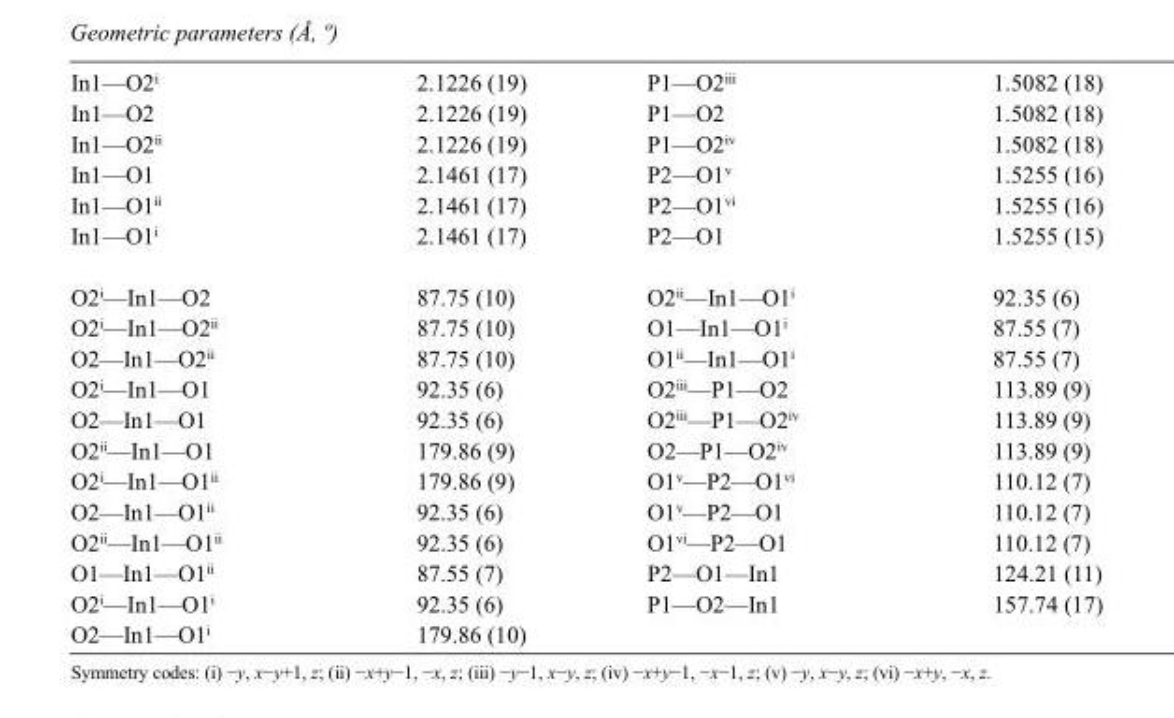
<table><tbody><tr><td>In1—O2<sup>i</sup></td><td>2.1226 (19)</td><td>P1—O2<sup>iii</sup></td><td>1.5082 (18)</td></tr><tr><td>In1—O2</td><td>2.1226 (19)</td><td>P1—O2</td><td>1.5082 (18)</td></tr><tr><td>In1—O2<sup>ii</sup></td><td>2.1226 (19)</td><td>P1—O2<sup>iv</sup></td><td>1.5082 (18)</td></tr><tr><td>In1—O1</td><td>2.1461 (17)</td><td>P2—O1<sup>v</sup></td><td>1.5255 (16)</td></tr><tr><td>In1—O1<sup>ii</sup></td><td>2.1461 (17)</td><td>P2—O1<sup>vi</sup></td><td>1.5255 (16)</td></tr><tr><td>In1—O1<sup>i</sup></td><td>2.1461 (17)</td><td>P2—O1</td><td>1.5255 (15)</td></tr><tr><td>O2<sup>i</sup>—In1—O2</td><td>87.75 (10)</td><td>O2<sup>ii</sup>—In1—O1<sup>i</sup></td><td>92.35 (6)</td></tr><tr><td>O2<sup>i</sup>—In1—O2<sup>ii</sup></td><td>87.75 (10)</td><td>O1—In1—O1<sup>i</sup></td><td>87.55 (7)</td></tr><tr><td>O2—In1—O2<sup>ii</sup></td><td>87.75 (10)</td><td>O1<sup>ii</sup>—In1—O1<sup>i</sup></td><td>87.55 (7)</td></tr><tr><td>O2<sup>i</sup>—In1—O1</td><td>92.35 (6)</td><td>O2<sup>iii</sup>—P1—O2</td><td>113.89 (9)</td></tr><tr><td>O2—In1—O1</td><td>92.35 (6)</td><td>O2<sup>iii</sup>—P1—O2<sup>iv</sup></td><td>113.89 (9)</td></tr><tr><td>O2<sup>ii</sup>—In1—O1</td><td>179.86 (9)</td><td>O2—P1—O2<sup>iv</sup></td><td>113.89 (9)</td></tr><tr><td>O2<sup>i</sup>—In1—O1<sup>ii</sup></td><td>179.86 (9)</td><td>O1<sup>v</sup>—P2—O1<sup>vi</sup></td><td>110.12 (7)</td></tr><tr><td>O2—In1—O1<sup>ii</sup></td><td>92.35 (6)</td><td>O1<sup>v</sup>—P2—O1</td><td>110.12 (7)</td></tr><tr><td>O2<sup>ii</sup>—In1—O1<sup>ii</sup></td><td>92.35 (6)</td><td>O1<sup>vi</sup>—P2—O1</td><td>110.12 (7)</td></tr><tr><td>O1—In1—O1<sup>ii</sup></td><td>87.55 (7)</td><td>P2—O1—In1</td><td>124.21 (11)</td></tr><tr><td>O2<sup>i</sup>—In1—O1<sup>i</sup></td><td>92.35 (6)</td><td>P1—O2—In1</td><td>157.74 (17)</td></tr><tr><td>O2—In1—O1<sup>i</sup></td><td>179.86 (10)</td><td></td><td></td></tr></tbody></table>